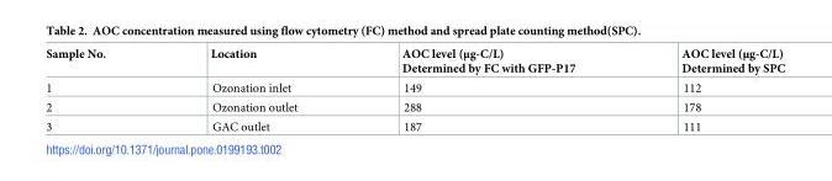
<table><thead><tr><td>Sample No.</td><td>Location</td><td>AOC level (µg-C/L) Determined by FC with GFP-P17</td><td>AOC level (µg-C/L) Determined by SPC</td></tr></thead><tbody><tr><td>1</td><td>Ozonation inlet</td><td>149</td><td>112</td></tr><tr><td>2</td><td>Ozonation outlet</td><td>288</td><td>178</td></tr><tr><td>3</td><td>GAC outlet</td><td>187</td><td>111</td></tr></tbody></table>